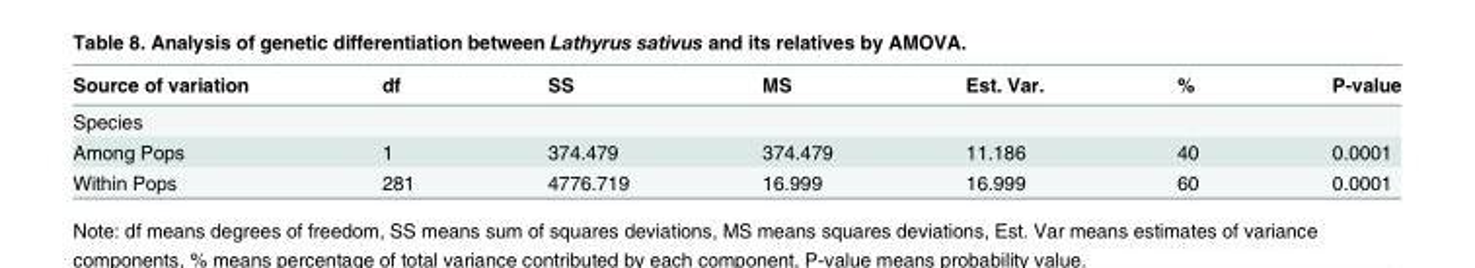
<table><thead><tr><td>Source of variation</td><td>df</td><td>SS</td><td>MS</td><td>Est. Var.</td><td>%</td><td>P-value</td></tr></thead><tbody><tr><td colspan="7">Species</td></tr><tr><td>Among Pops</td><td>1</td><td>374.479</td><td>374.479</td><td>11.186</td><td>40</td><td>0.0001</td></tr><tr><td>Within Pops</td><td>281</td><td>4776.719</td><td>16.999</td><td>16.999</td><td>60</td><td>0.0001</td></tr></tbody></table>